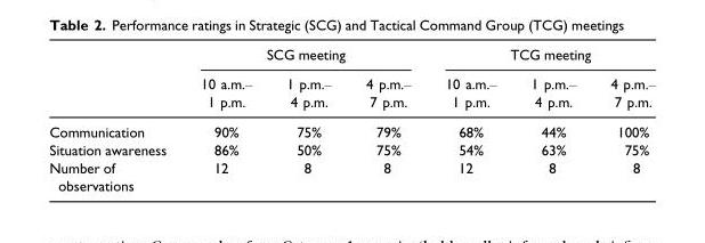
<table><thead><tr><td rowspan="2"></td><td colspan="3">SCG meeting</td><td colspan="3">TCG meeting</td></tr><tr><td>10 a.m.– 1 p.m.</td><td>1 p.m.– 4 p.m.</td><td>4 p.m.– 7 p.m.</td><td>10 a.m.– 1 p.m.</td><td>1 p.m.– 4 p.m.</td><td>4 p.m.– 7 p.m.</td></tr></thead><tbody><tr><td>Communication</td><td>90%</td><td>75%</td><td>79%</td><td>68%</td><td>44%</td><td>100%</td></tr><tr><td>Situation awareness</td><td>86%</td><td>50%</td><td>75%</td><td>54%</td><td>63%</td><td>75%</td></tr><tr><td>Number of observations</td><td>12</td><td>8</td><td>8</td><td>12</td><td>8</td><td>8</td></tr></tbody></table>